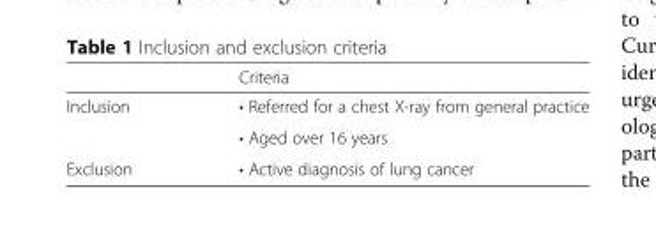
<table><thead><tr><td></td><td>Criteria</td></tr></thead><tbody><tr><td rowspan="2">Inclusion</td><td>• Referred for a chest X-ray from general practice</td></tr><tr><td>• Aged over 16 years</td></tr><tr><td>Exclusion</td><td>• Active diagnosis of lung cancer</td></tr></tbody></table>